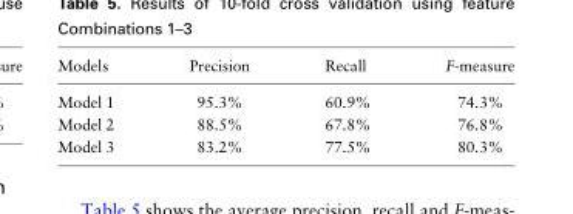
<table><thead><tr><td>Models</td><td>Precision</td><td>Recall</td><td>F-measure</td></tr></thead><tbody><tr><td>Model 1</td><td>95.3%</td><td>60.9%</td><td>74.3%</td></tr><tr><td>Model 2</td><td>88.5%</td><td>67.8%</td><td>76.8%</td></tr><tr><td>Model 3</td><td>83.2%</td><td>77.5%</td><td>80.3%</td></tr></tbody></table>